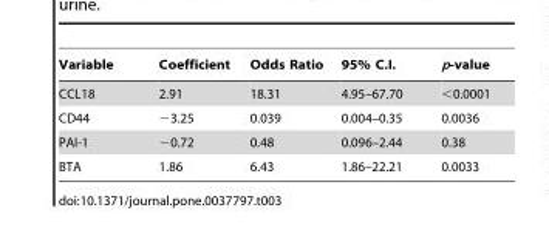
<table><thead><tr><td>Variable</td><td>Coefficient</td><td>Odds Ratio</td><td>95% C.I.</td><td>p-value</td></tr></thead><tbody><tr><td>CCL18</td><td>2.91</td><td>18.31</td><td>4.95–67.70</td><td>&lt;0.0001</td></tr><tr><td>CD44</td><td>−3.25</td><td>0.039</td><td>0.004–0.35</td><td>0.0036</td></tr><tr><td>PAI-1</td><td>−0.72</td><td>0.48</td><td>0.096–2.44</td><td>0.38</td></tr><tr><td>BTA</td><td>1.86</td><td>6.43</td><td>1.86–22.21</td><td>0.0033</td></tr></tbody></table>